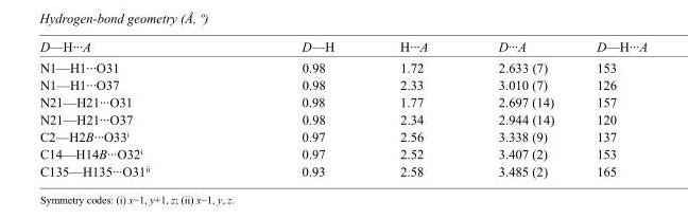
<table><tbody><tr><td>D—H···A</td><td>D—H</td><td>H···A</td><td>D···A</td><td>D—H···A</td></tr><tr><td>N1—H1···O31</td><td>0.98</td><td>1.72</td><td>2.633 (7)</td><td>153</td></tr><tr><td>N1—H1···O37</td><td>0.98</td><td>2.33</td><td>3.010 (7)</td><td>126</td></tr><tr><td>N21—H21···O31</td><td>0.98</td><td>1.77</td><td>2.697 (14)</td><td>157</td></tr><tr><td>N21—H21···O37</td><td>0.98</td><td>2.34</td><td>2.944 (14)</td><td>120</td></tr><tr><td>C2—H2B···O33<sup>i</sup></td><td>0.97</td><td>2.56</td><td>3.338 (9)</td><td>137</td></tr><tr><td>C14—H14B···O32<sup>i</sup></td><td>0.97</td><td>2.52</td><td>3.407 (2)</td><td>153</td></tr><tr><td>C135—H135···O31<sup>ii</sup></td><td>0.93</td><td>2.58</td><td>3.485 (2)</td><td>165</td></tr></tbody></table>